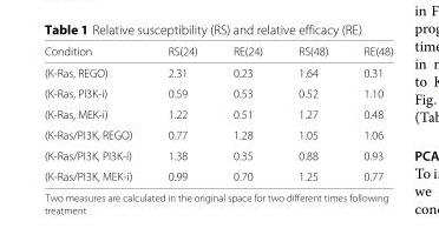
<table><thead><tr><td>Condition</td><td>RS(24)</td><td>RE(24)</td><td>RS(48)</td><td>RE(48)</td></tr></thead><tbody><tr><td>(K-Ras, REGO)</td><td>2.31</td><td>0.23</td><td>1.64</td><td>0.31</td></tr><tr><td>(K-Ras, PI3K-i)</td><td>0.59</td><td>0.53</td><td>0.52</td><td>1.10</td></tr><tr><td>(K-Ras, MEK-i)</td><td>1.22</td><td>0.51</td><td>1.27</td><td>0.48</td></tr><tr><td>(K-Ras/PI3K, REGO)</td><td>0.77</td><td>1.28</td><td>1.05</td><td>1.06</td></tr><tr><td>(K-Ras/PI3K, PI3K-i)</td><td>1.38</td><td>0.35</td><td>0.88</td><td>0.93</td></tr><tr><td>(K-Ras/PI3K, MEK-i)</td><td>0.99</td><td>0.70</td><td>1.25</td><td>0.77</td></tr></tbody></table>